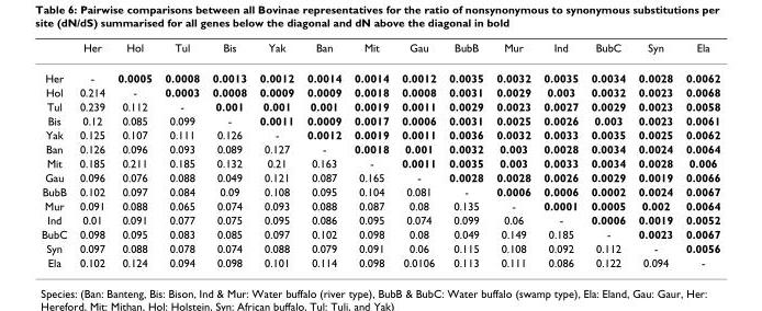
<table><thead><tr><td></td><td>Her</td><td>Hol</td><td>Tul</td><td>Bis</td><td>Yak</td><td>Ban</td><td>Mit</td><td>Gau</td><td>BubB</td><td>Mur</td><td>Ind</td><td>BubC</td><td>Syn</td><td>Ela</td></tr></thead><tbody><tr><td>Her</td><td>-</td><td>0.0005</td><td>0.0008</td><td>0.0013</td><td>0.0012</td><td>0.0014</td><td>0.0014</td><td>0.0012</td><td>0.0035</td><td>0.0032</td><td>0.0035</td><td>0.0034</td><td>0.0028</td><td>0.0062</td></tr><tr><td>Hol</td><td>0.214</td><td>-</td><td>0.0003</td><td>0.0008</td><td>0.0009</td><td>0.0009</td><td>0.0018</td><td>0.0008</td><td>0.0031</td><td>0.0029</td><td>0.003</td><td>0.0032</td><td>0.0023</td><td>0.0068</td></tr><tr><td>Tul</td><td>0.239</td><td>0.112</td><td>-</td><td>0.001</td><td>0.001</td><td>0.001</td><td>0.0019</td><td>0.0011</td><td>0.0029</td><td>0.0023</td><td>0.0027</td><td>0.0029</td><td>0.0023</td><td>0.0058</td></tr><tr><td>Bis</td><td>0.12</td><td>0.085</td><td>0.099</td><td>-</td><td>0.0011</td><td>0.0009</td><td>0.0017</td><td>0.0006</td><td>0.0031</td><td>0.0025</td><td>0.0026</td><td>0.003</td><td>0.0023</td><td>0.0061</td></tr><tr><td>Yak</td><td>0.125</td><td>0.107</td><td>0.111</td><td>0.126</td><td>-</td><td>0.0012</td><td>0.0019</td><td>0.0011</td><td>0.0036</td><td>0.0032</td><td>0.0033</td><td>0.0035</td><td>0.0025</td><td>0.0062</td></tr><tr><td>Ban</td><td>0.126</td><td>0.096</td><td>0.093</td><td>0.089</td><td>0.127</td><td>-</td><td>0.0018</td><td>0.001</td><td>0.0032</td><td>0.003</td><td>0.0028</td><td>0.0034</td><td>0.0024</td><td>0.0064</td></tr><tr><td>Mit</td><td>0.185</td><td>0.211</td><td>0.185</td><td>0.132</td><td>0.21</td><td>0.163</td><td>-</td><td>0.0011</td><td>0.0035</td><td>0.003</td><td>0.0033</td><td>0.0034</td><td>0.0028</td><td>0.006</td></tr><tr><td>Gau</td><td>0.096</td><td>0.076</td><td>0.088</td><td>0.049</td><td>0.121</td><td>0.087</td><td>0.165</td><td>-</td><td>0.0028</td><td>0.0028</td><td>0.0026</td><td>0.0029</td><td>0.0019</td><td>0.0066</td></tr><tr><td>BubB</td><td>0.102</td><td>0.097</td><td>0.084</td><td>0.09</td><td>0.108</td><td>0.095</td><td>0.104</td><td>0.081</td><td>-</td><td>0.0006</td><td>0.0006</td><td>0.0002</td><td>0.0024</td><td>0.0067</td></tr><tr><td>Mur</td><td>0.091</td><td>0.088</td><td>0.065</td><td>0.074</td><td>0.093</td><td>0.088</td><td>0.087</td><td>0.08</td><td>0.135</td><td>-</td><td>0.0001</td><td>0.0005</td><td>0.002</td><td>0.0064</td></tr><tr><td>Ind</td><td>0.01</td><td>0.091</td><td>0.077</td><td>0.075</td><td>0.095</td><td>0.086</td><td>0.095</td><td>0.074</td><td>0.099</td><td>0.06</td><td>-</td><td>0.0006</td><td>0.0019</td><td>0.0052</td></tr><tr><td>BubC</td><td>0.098</td><td>0.095</td><td>0.083</td><td>0.085</td><td>0.097</td><td>0.102</td><td>0.098</td><td>0.08</td><td>0.049</td><td>0.149</td><td>0.185</td><td>-</td><td>0.0023</td><td>0.0067</td></tr><tr><td>Syn</td><td>0.097</td><td>0.088</td><td>0.078</td><td>0.074</td><td>0.088</td><td>0.079</td><td>0.091</td><td>0.06</td><td>0.115</td><td>0.108</td><td>0.092</td><td>0.112</td><td>-</td><td>0.0056</td></tr><tr><td>Ela</td><td>0.102</td><td>0.124</td><td>0.094</td><td>0.098</td><td>0.101</td><td>0.114</td><td>0.098</td><td>0.0106</td><td>0.113</td><td>0.111</td><td>0.086</td><td>0.122</td><td>0.094</td><td>-</td></tr></tbody></table>